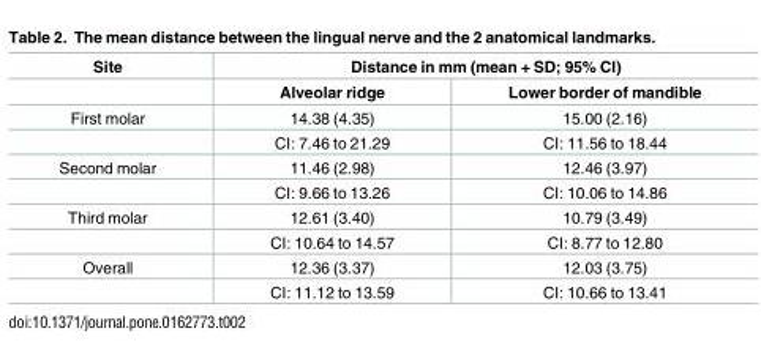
<table><thead><tr><td rowspan="2">Site</td><td colspan="2">Distance in mm (mean + SD; 95% CI)</td></tr><tr><td>Alveolar ridge</td><td>Lower border of mandible</td></tr></thead><tbody><tr><td rowspan="2">First molar</td><td>14.38 (4.35)</td><td>15.00 (2.16)</td></tr><tr><td>CI: 7.46 to 21.29</td><td>CI: 11.56 to 18.44</td></tr><tr><td rowspan="2">Second molar</td><td>11.46 (2.98)</td><td>12.46 (3.97)</td></tr><tr><td>CI: 9.66 to 13.26</td><td>CI: 10.06 to 14.86</td></tr><tr><td rowspan="2">Third molar</td><td>12.61 (3.40)</td><td>10.79 (3.49)</td></tr><tr><td>CI: 10.64 to 14.57</td><td>CI: 8.77 to 12.80</td></tr><tr><td rowspan="2">Overall</td><td>12.36 (3.37)</td><td>12.03 (3.75)</td></tr><tr><td>CI: 11.12 to 13.59</td><td>CI: 10.66 to 13.41</td></tr></tbody></table>